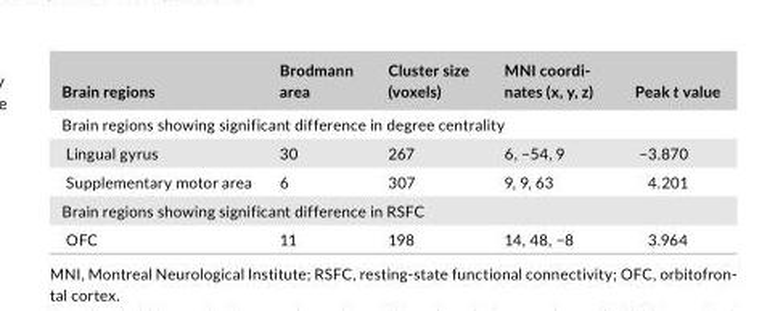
<table><thead><tr><td>Brain regions</td><td>Brodmann area</td><td>Cluster size (voxels)</td><td>MNI coordi- nates (x, y, z)</td><td>Peak t value</td></tr></thead><tbody><tr><td colspan="5">Brain regions showing significant difference in degree centrality</td></tr><tr><td>Lingual gyrus</td><td>30</td><td>267</td><td>6, −54, 9</td><td>−3.870</td></tr><tr><td>Supplementary motor area</td><td>6</td><td>307</td><td>9, 9, 63</td><td>4.201</td></tr><tr><td colspan="5">Brain regions showing significant difference in RSFC</td></tr><tr><td>OFC</td><td>11</td><td>198</td><td>14, 48, −8</td><td>3.964</td></tr></tbody></table>